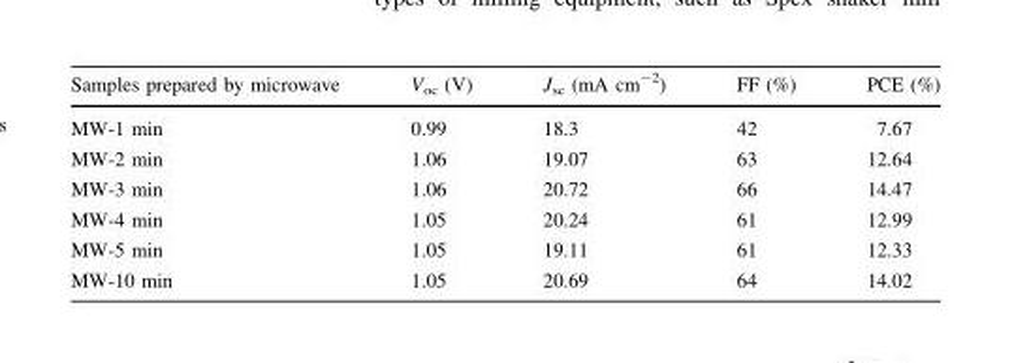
<table><thead><tr><td>Samples prepared by microwave</td><td>V<sub>oc</sub> (V)</td><td>J<sub>sc</sub> (mA cm<sup>-2</sup>)</td><td>FF (%)</td><td>PCE (%)</td></tr></thead><tbody><tr><td>MW-1 min</td><td>0.99</td><td>18.3</td><td>42</td><td>7.67</td></tr><tr><td>MW-2 min</td><td>1.06</td><td>19.07</td><td>63</td><td>12.64</td></tr><tr><td>MW-3 min</td><td>1.06</td><td>20.72</td><td>66</td><td>14.47</td></tr><tr><td>MW-4 min</td><td>1.05</td><td>20.24</td><td>61</td><td>12.99</td></tr><tr><td>MW-5 min</td><td>1.05</td><td>19.11</td><td>61</td><td>12.33</td></tr><tr><td>MW-10 min</td><td>1.05</td><td>20.69</td><td>64</td><td>14.02</td></tr></tbody></table>